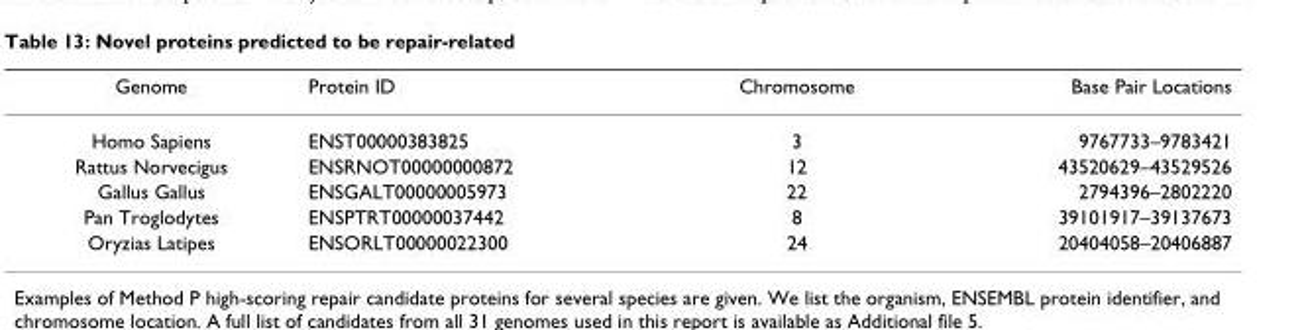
<table><thead><tr><td>Genome</td><td>Protein ID</td><td>Chromosome</td><td>Base Pair Locations</td></tr></thead><tbody><tr><td>Homo Sapiens</td><td>ENST00000383825</td><td>3</td><td>9767733–9783421</td></tr><tr><td>Rattus Norvecigus</td><td>ENSRNOT00000000872</td><td>12</td><td>43520629–43529526</td></tr><tr><td>Gallus Gallus</td><td>ENSGALT00000005973</td><td>22</td><td>2794396–2802220</td></tr><tr><td>Pan Troglodytes</td><td>ENSPTRT00000037442</td><td>8</td><td>39101917–39137673</td></tr><tr><td>Oryzias Latipes</td><td>ENSORLT00000022300</td><td>24</td><td>20404058–20406887</td></tr></tbody></table>